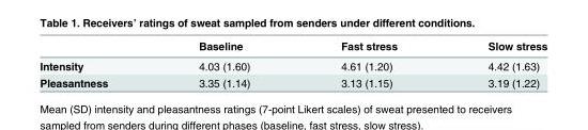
<table><thead><tr><td></td><td>Baseline</td><td>Fast stress</td><td>Slow stress</td></tr></thead><tbody><tr><td>Intensity</td><td>4.03 (1.60)</td><td>4.61 (1.20)</td><td>4.42 (1.63)</td></tr><tr><td>Pleasantness</td><td>3.35 (1.14)</td><td>3.13 (1.15)</td><td>3.19 (1.22)</td></tr></tbody></table>